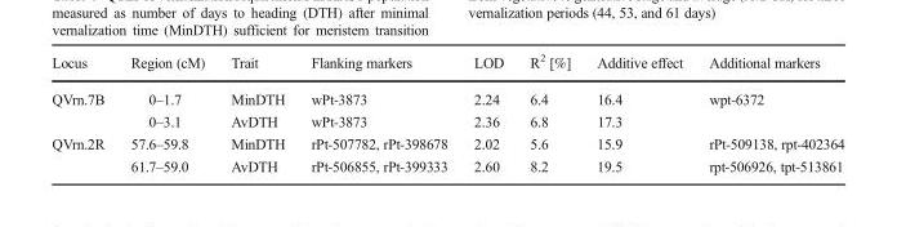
<table><thead><tr><td>Locus</td><td>Region (cM)</td><td>Trait</td><td>Flanking markers</td><td>LOD</td><td>R<sup>2</sup> [%]</td><td>Additive effect</td><td>Additional markers</td></tr></thead><tbody><tr><td rowspan="2">QVrn.7B</td><td>0–1.7</td><td>MinDTH</td><td>wPt-3873</td><td>2.24</td><td>6.4</td><td>16.4</td><td>wpt-6372</td></tr><tr><td>0–3.1</td><td>AvDTH</td><td>wPt-3873</td><td>2.36</td><td>6.8</td><td>17.3</td><td></td></tr><tr><td rowspan="2">QVrn.2R</td><td>57.6–59.8</td><td>MinDTH</td><td>rPt-507782, rPt-398678</td><td>2.02</td><td>5.6</td><td>15.9</td><td>rPt-509138, rpt-402364</td></tr><tr><td>61.7–59.0</td><td>AvDTH</td><td>rPt-506855, rPt-399333</td><td>2.60</td><td>8.2</td><td>19.5</td><td>rpt-506926, tpt-513861</td></tr></tbody></table>